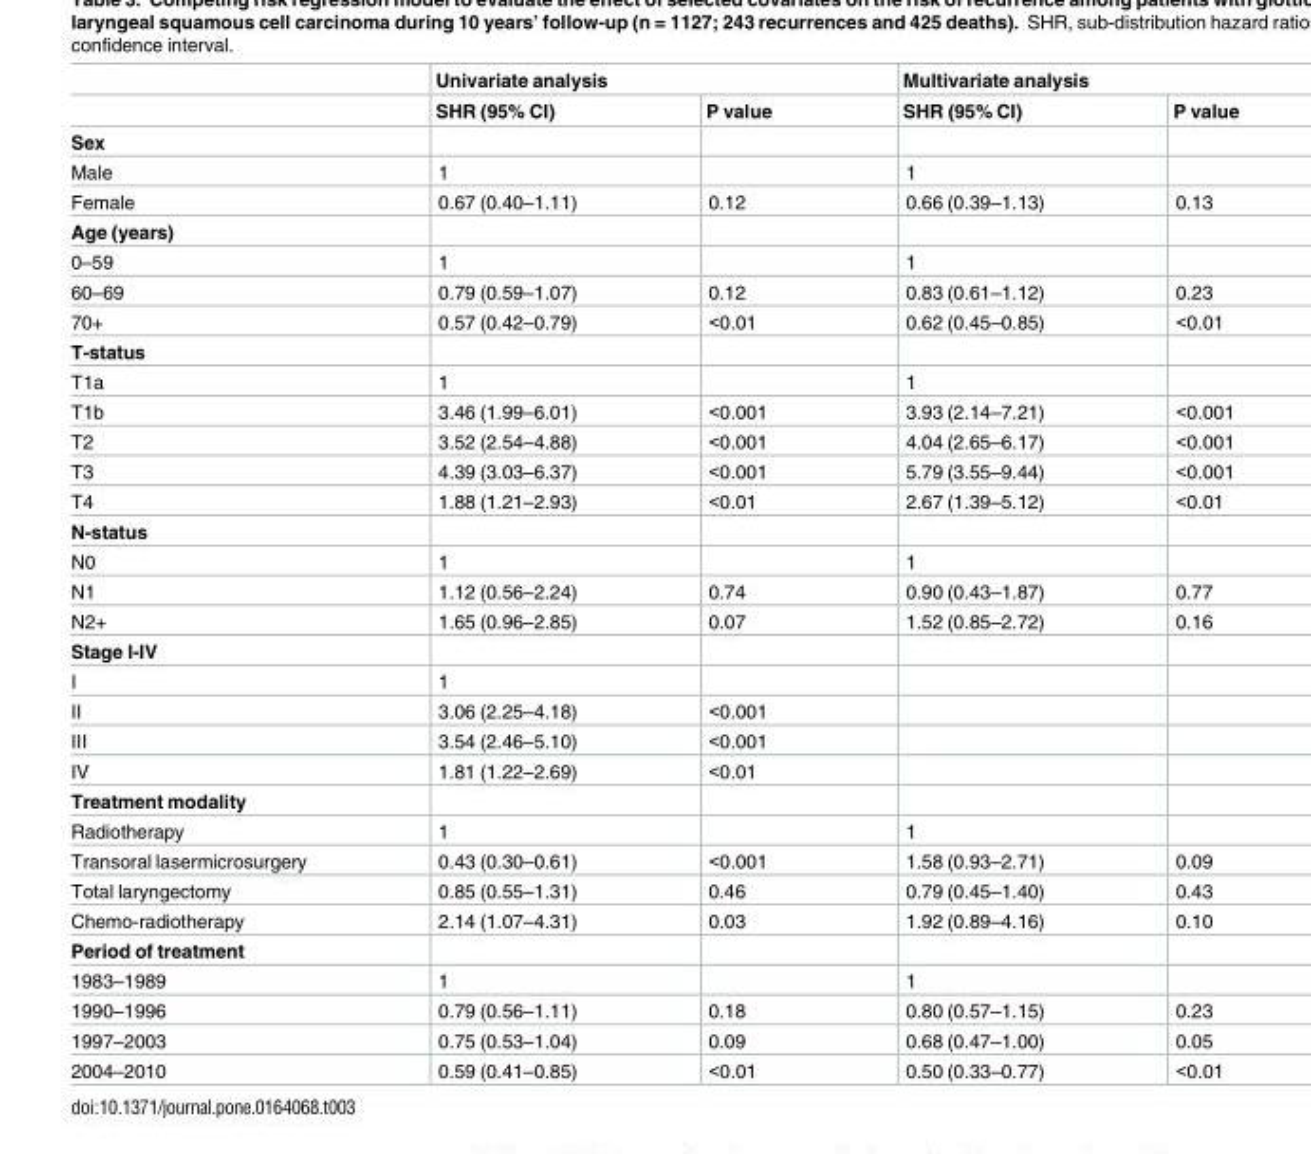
<table><thead><tr><td rowspan="2"></td><td colspan="2">Univariate analysis</td><td colspan="2">Multivariate analysis</td></tr><tr><td>SHR (95% CI)</td><td>P value</td><td>SHR (95% CI)</td><td>P value</td></tr></thead><tbody><tr><td colspan="5">Sex</td></tr><tr><td>Male</td><td>1</td><td></td><td>1</td><td></td></tr><tr><td>Female</td><td>0.67 (0.40–1.11)</td><td>0.12</td><td>0.66 (0.39–1.13)</td><td>0.13</td></tr><tr><td colspan="5">Age (years)</td></tr><tr><td>0–59</td><td>1</td><td></td><td>1</td><td></td></tr><tr><td>60–69</td><td>0.79 (0.59–1.07)</td><td>0.12</td><td>0.83 (0.61–1.12)</td><td>0.23</td></tr><tr><td>70+</td><td>0.57 (0.42–0.79)</td><td>&lt;0.01</td><td>0.62 (0.45–0.85)</td><td>&lt;0.01</td></tr><tr><td colspan="5">T-status</td></tr><tr><td>T1a</td><td>1</td><td></td><td>1</td><td></td></tr><tr><td>T1b</td><td>3.46 (1.99–6.01)</td><td>&lt;0.001</td><td>3.93 (2.14–7.21)</td><td>&lt;0.001</td></tr><tr><td>T2</td><td>3.52 (2.54–4.88)</td><td>&lt;0.001</td><td>4.04 (2.65–6.17)</td><td>&lt;0.001</td></tr><tr><td>T3</td><td>4.39 (3.03–6.37)</td><td>&lt;0.001</td><td>5.79 (3.55–9.44)</td><td>&lt;0.001</td></tr><tr><td>T4</td><td>1.88 (1.21–2.93)</td><td>&lt;0.01</td><td>2.67 (1.39–5.12)</td><td>&lt;0.01</td></tr><tr><td colspan="5">N-status</td></tr><tr><td>N0</td><td>1</td><td></td><td>1</td><td></td></tr><tr><td>N1</td><td>1.12 (0.56–2.24)</td><td>0.74</td><td>0.90 (0.43–1.87)</td><td>0.77</td></tr><tr><td>N2+</td><td>1.65 (0.96–2.85)</td><td>0.07</td><td>1.52 (0.85–2.72)</td><td>0.16</td></tr><tr><td colspan="5">Stage I-IV</td></tr><tr><td>I</td><td>1</td><td></td><td></td><td></td></tr><tr><td>II</td><td>3.06 (2.25–4.18)</td><td>&lt;0.001</td><td></td><td></td></tr><tr><td>III</td><td>3.54 (2.46–5.10)</td><td>&lt;0.001</td><td></td><td></td></tr><tr><td>IV</td><td>1.81 (1.22–2.69)</td><td>&lt;0.01</td><td></td><td></td></tr><tr><td colspan="5">Treatment modality</td></tr><tr><td>Radiotherapy</td><td>1</td><td></td><td>1</td><td></td></tr><tr><td>Transoral lasermicrosurgery</td><td>0.43 (0.30–0.61)</td><td>&lt;0.001</td><td>1.58 (0.93–2.71)</td><td>0.09</td></tr><tr><td>Total laryngectomy</td><td>0.85 (0.55–1.31)</td><td>0.46</td><td>0.79 (0.45–1.40)</td><td>0.43</td></tr><tr><td>Chemo-radiotherapy</td><td>2.14 (1.07–4.31)</td><td>0.03</td><td>1.92 (0.89–4.16)</td><td>0.10</td></tr><tr><td colspan="5">Period of treatment</td></tr><tr><td>1983–1989</td><td>1</td><td></td><td>1</td><td></td></tr><tr><td>1990–1996</td><td>0.79 (0.56–1.11)</td><td>0.18</td><td>0.80 (0.57–1.15)</td><td>0.23</td></tr><tr><td>1997–2003</td><td>0.75 (0.53–1.04)</td><td>0.09</td><td>0.68 (0.47–1.00)</td><td>0.05</td></tr><tr><td>2004–2010</td><td>0.59 (0.41–0.85)</td><td>&lt;0.01</td><td>0.50 (0.33–0.77)</td><td>&lt;0.01</td></tr></tbody></table>